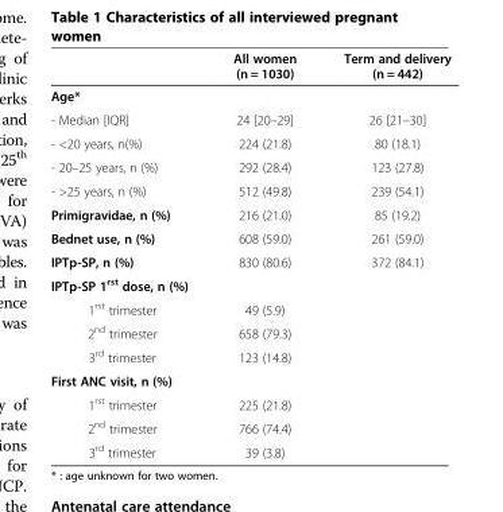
<table><thead><tr><td></td><td>All women (n = 1030)</td><td>Term and delivery (n = 442)</td></tr></thead><tbody><tr><td colspan="3">Age*</td></tr><tr><td>- Median [IQR]</td><td>24 [20–29]</td><td>26 [21–30]</td></tr><tr><td>- &lt;20 years, n(%)</td><td>224 (21.8)</td><td>80 (18.1)</td></tr><tr><td>- 20–25 years, n (%)</td><td>292 (28.4)</td><td>123 (27.8)</td></tr><tr><td>- &gt;25 years, n (%)</td><td>512 (49.8)</td><td>239 (54.1)</td></tr><tr><td>Primigravidae, n (%)</td><td>216 (21.0)</td><td>85 (19.2)</td></tr><tr><td>Bednet use, n (%)</td><td>608 (59.0)</td><td>261 (59.0)</td></tr><tr><td>IPTp-SP, n (%)</td><td>830 (80.6)</td><td>372 (84.1)</td></tr><tr><td colspan="3">IPTp-SP 1<sup>rst</sup> dose, n (%)</td></tr><tr><td>1<sup>rst</sup> trimester</td><td>49 (5.9)</td><td></td></tr><tr><td>2<sup>nd</sup> trimester</td><td>658 (79.3)</td><td></td></tr><tr><td>3<sup>rd</sup> trimester</td><td>123 (14.8)</td><td></td></tr><tr><td colspan="3">First ANC visit, n (%)</td></tr><tr><td>1<sup>rst</sup> trimester</td><td>225 (21.8)</td><td></td></tr><tr><td>2<sup>nd</sup> trimester</td><td>766 (74.4)</td><td></td></tr><tr><td>3<sup>rd</sup> trimester</td><td>39 (3.8)</td><td></td></tr></tbody></table>